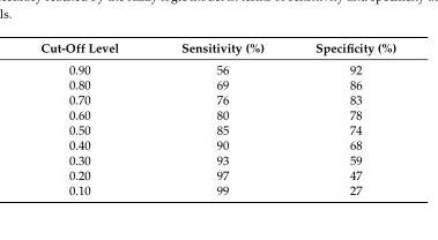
<table><thead><tr><td>Cut-Off Level</td><td>Sensitivity (%)</td><td>Specificity (%)</td></tr></thead><tbody><tr><td>0.90</td><td>56</td><td>92</td></tr><tr><td>0.80</td><td>69</td><td>86</td></tr><tr><td>0.70</td><td>76</td><td>83</td></tr><tr><td>0.60</td><td>80</td><td>78</td></tr><tr><td>0.50</td><td>85</td><td>74</td></tr><tr><td>0.40</td><td>90</td><td>68</td></tr><tr><td>0.30</td><td>93</td><td>59</td></tr><tr><td>0.20</td><td>97</td><td>47</td></tr><tr><td>0.10</td><td>99</td><td>27</td></tr></tbody></table>